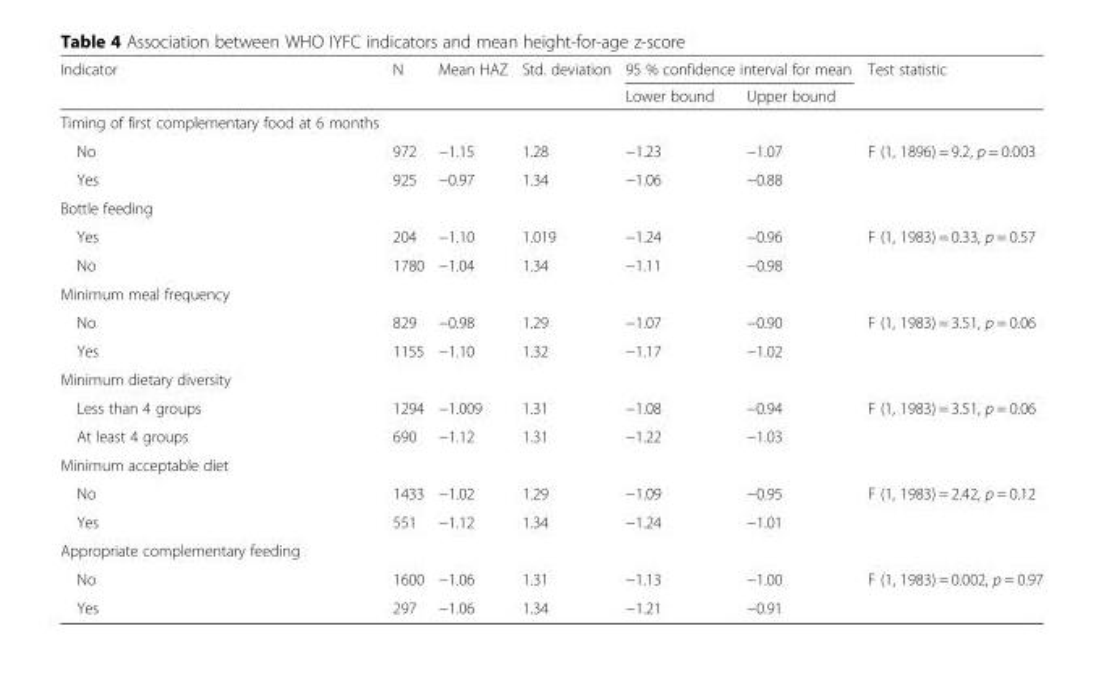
<table><thead><tr><td rowspan="2">Indicator</td><td rowspan="2">N</td><td rowspan="2">Mean HAZ</td><td rowspan="2">Std. deviation</td><td colspan="2">95 % confidence interval for mean</td><td rowspan="2">Test statistic</td></tr><tr><td>Lower bound</td><td>Upper bound</td></tr></thead><tbody><tr><td colspan="7">Timing of first complementary food at 6 months</td></tr><tr><td>No</td><td>972</td><td>−1.15</td><td>1.28</td><td>−1.23</td><td>−1.07</td><td rowspan="2">F (1, 1896) = 9.2, p = 0.003</td></tr><tr><td>Yes</td><td>925</td><td>−0.97</td><td>1.34</td><td>−1.06</td><td>−0.88</td></tr><tr><td colspan="7">Bottle feeding</td></tr><tr><td>Yes</td><td>204</td><td>−1.10</td><td>1.019</td><td>−1.24</td><td>−0.96</td><td rowspan="2">F (1, 1983) = 0.33, p = 0.57</td></tr><tr><td>No</td><td>1780</td><td>−1.04</td><td>1.34</td><td>−1.11</td><td>−0.98</td></tr><tr><td colspan="7">Minimum meal frequency</td></tr><tr><td>No</td><td>829</td><td>−0.98</td><td>1.29</td><td>−1.07</td><td>−0.90</td><td rowspan="2">F (1, 1983) = 3.51, p = 0.06</td></tr><tr><td>Yes</td><td>1155</td><td>−1.10</td><td>1.32</td><td>−1.17</td><td>−1.02</td></tr><tr><td colspan="7">Minimum dietary diversity</td></tr><tr><td>Less than 4 groups</td><td>1294</td><td>−1.009</td><td>1.31</td><td>−1.08</td><td>−0.94</td><td rowspan="2">F (1, 1983) = 3.51, p = 0.06</td></tr><tr><td>At least 4 groups</td><td>690</td><td>−1.12</td><td>1.31</td><td>−1.22</td><td>−1.03</td></tr><tr><td colspan="7">Minimum acceptable diet</td></tr><tr><td>No</td><td>1433</td><td>−1.02</td><td>1.29</td><td>−1.09</td><td>−0.95</td><td rowspan="2">F (1, 1983) = 2.42, p = 0.12</td></tr><tr><td>Yes</td><td>551</td><td>−1.12</td><td>1.34</td><td>−1.24</td><td>−1.01</td></tr><tr><td colspan="7">Appropriate complementary feeding</td></tr><tr><td>No</td><td>1600</td><td>−1.06</td><td>1.31</td><td>−1.13</td><td>−1.00</td><td rowspan="2">F (1, 1983) = 0.002, p = 0.97</td></tr><tr><td>Yes</td><td>297</td><td>−1.06</td><td>1.34</td><td>−1.21</td><td>−0.91</td></tr></tbody></table>